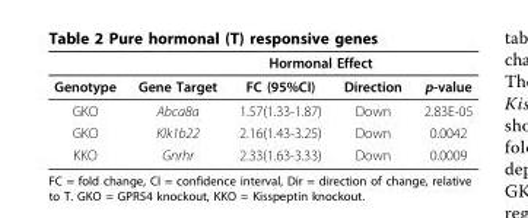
<table><thead><tr><td rowspan="2">Genotype</td><td rowspan="2">Gene Target</td><td colspan="2">Hormonal Effect</td><td rowspan="2">p-value</td></tr><tr><td>FC (95%CI)</td><td>Direction</td></tr></thead><tbody><tr><td>GKO</td><td>Abca8a</td><td>1.57(1.33-1.87)</td><td>Down</td><td>2.83E-05</td></tr><tr><td>GKO</td><td>Klk1b22</td><td>2.16(1.43-3.25)</td><td>Down</td><td>0.0042</td></tr><tr><td>KKO</td><td>Gnrhr</td><td>2.33(1.63-3.33)</td><td>Down</td><td>0.0009</td></tr></tbody></table>